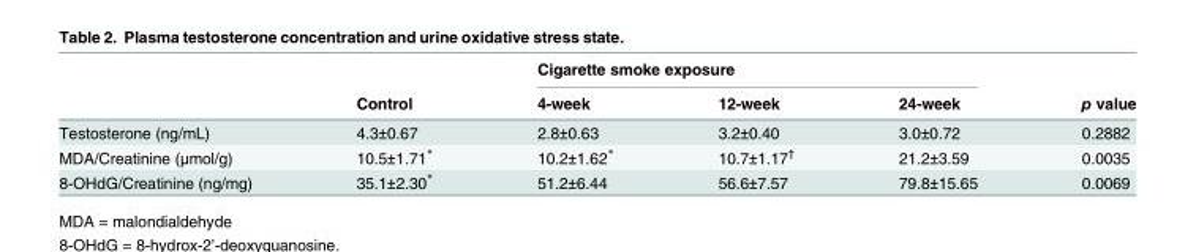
<table><thead><tr><td rowspan="2"></td><td rowspan="2">Control</td><td colspan="3">Cigarette smoke exposure</td><td rowspan="2">p value</td></tr><tr><td>4-week</td><td>12-week</td><td>24-week</td></tr></thead><tbody><tr><td>Testosterone (ng/mL)</td><td>4.3±0.67</td><td>2.8±0.63</td><td>3.2±0.40</td><td>3.0±0.72</td><td>0.2882</td></tr><tr><td>MDA/Creatinine (μmol/g)</td><td>10.5±1.71*</td><td>10.2±1.62*</td><td>10.7±1.17<sup>†</sup></td><td>21.2±3.59</td><td>0.0035</td></tr><tr><td>8-OHdG/Creatinine (ng/mg)</td><td>35.1±2.30*</td><td>51.2±6.44</td><td>56.6±7.57</td><td>79.8±15.65</td><td>0.0069</td></tr></tbody></table>